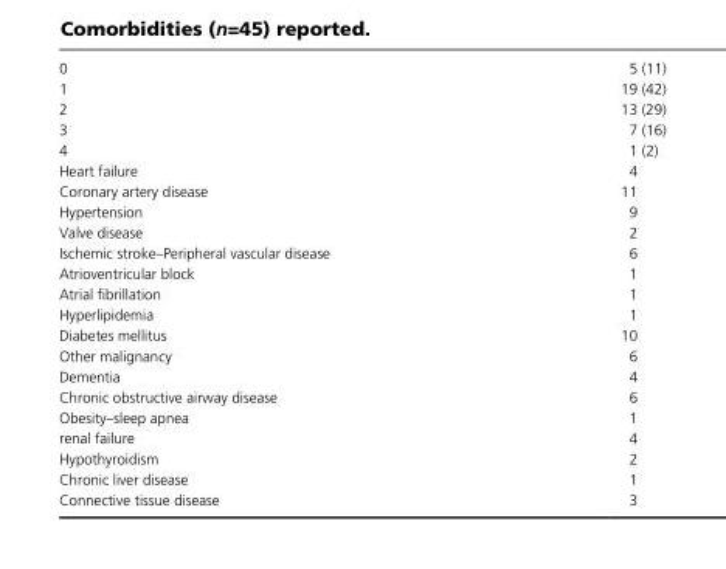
<table><tbody><tr><td>0</td><td>5 (11)</td></tr><tr><td>1</td><td>19 (42)</td></tr><tr><td>2</td><td>13 (29)</td></tr><tr><td>3</td><td>7 (16)</td></tr><tr><td>4</td><td>1 (2)</td></tr><tr><td>Heart failure</td><td>4</td></tr><tr><td>Coronary artery disease</td><td>11</td></tr><tr><td>Hypertension</td><td>9</td></tr><tr><td>Valve disease</td><td>2</td></tr><tr><td>Ischemic stroke–Peripheral vascular disease</td><td>6</td></tr><tr><td>Atrioventricular block</td><td>1</td></tr><tr><td>Atrial fibrillation</td><td>1</td></tr><tr><td>Hyperlipidemia</td><td>1</td></tr><tr><td>Diabetes mellitus</td><td>10</td></tr><tr><td>Other malignancy</td><td>6</td></tr><tr><td>Dementia</td><td>4</td></tr><tr><td>Chronic obstructive airway disease</td><td>6</td></tr><tr><td>Obesity–sleep apnea</td><td>1</td></tr><tr><td>renal failure</td><td>4</td></tr><tr><td>Hypothyroidism</td><td>2</td></tr><tr><td>Chronic liver disease</td><td>1</td></tr><tr><td>Connective tissue disease</td><td>3</td></tr></tbody></table>